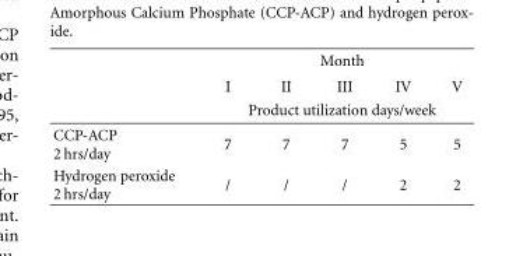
<table><thead><tr><td rowspan="3"></td><td colspan="5">Month</td></tr><tr><td>I</td><td>II</td><td>III</td><td>IV</td><td>V</td></tr><tr><td colspan="5">Product utilization days/week</td></tr></thead><tbody><tr><td>CCP-ACP 2 hrs/day</td><td>7</td><td>7</td><td>7</td><td>5</td><td>5</td></tr><tr><td>Hydrogen peroxide 2 hrs/day</td><td>/</td><td>/</td><td>/</td><td>2</td><td>2</td></tr></tbody></table>